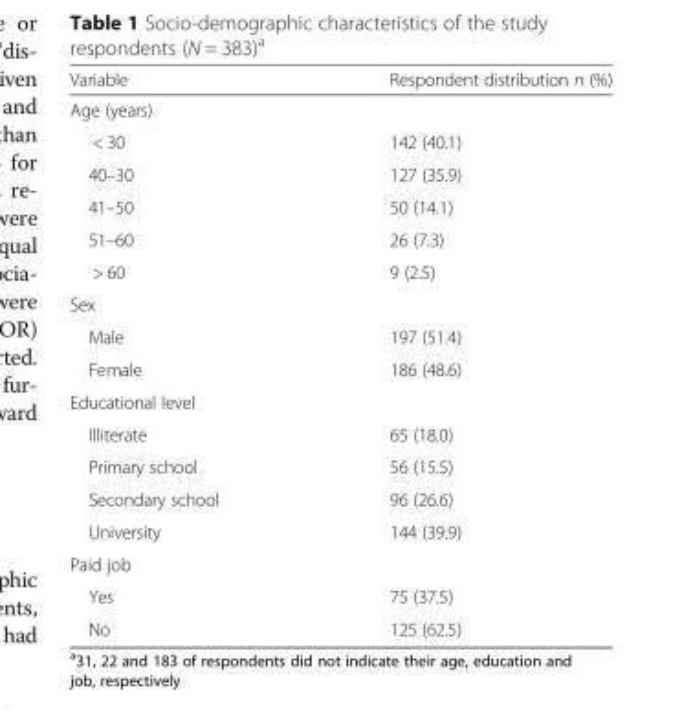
<table><thead><tr><td>Variable</td><td>Respondent distribution n (%)</td></tr></thead><tbody><tr><td colspan="2">Age (years)</td></tr><tr><td>&lt; 30</td><td>142 (40.1)</td></tr><tr><td>40–30</td><td>127 (35.9)</td></tr><tr><td>41–50</td><td>50 (14.1)</td></tr><tr><td>51–60</td><td>26 (7.3)</td></tr><tr><td>&gt; 60</td><td>9 (2.5)</td></tr><tr><td colspan="2">Sex</td></tr><tr><td>Male</td><td>197 (51.4)</td></tr><tr><td>Female</td><td>186 (48.6)</td></tr><tr><td colspan="2">Educational level</td></tr><tr><td>Illiterate</td><td>65 (18.0)</td></tr><tr><td>Primary school</td><td>56 (15.5)</td></tr><tr><td>Secondary school</td><td>96 (26.6)</td></tr><tr><td>University</td><td>144 (39.9)</td></tr><tr><td colspan="2">Paid job</td></tr><tr><td>Yes</td><td>75 (37.5)</td></tr><tr><td>No</td><td>125 (62.5)</td></tr></tbody></table>